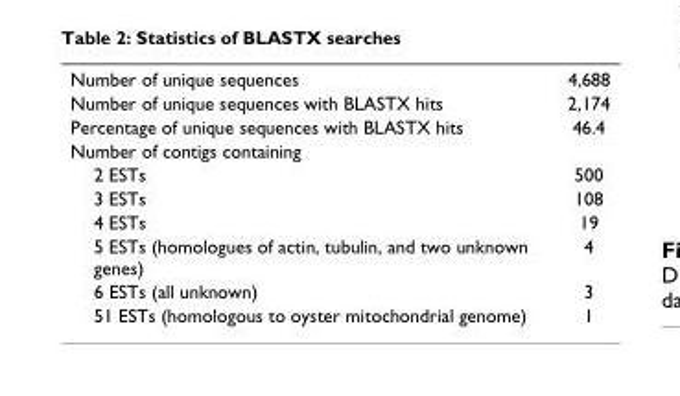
<table><tbody><tr><td>Number of unique sequences</td><td>4,688</td></tr><tr><td>Number of unique sequences with BLASTX hits</td><td>2,174</td></tr><tr><td>Percentage of unique sequences with BLASTX hits</td><td>46.4</td></tr><tr><td colspan="2">Number of contigs containing</td></tr><tr><td>2 ESTs</td><td>500</td></tr><tr><td>3 ESTs</td><td>108</td></tr><tr><td>4 ESTs</td><td>19</td></tr><tr><td>5 ESTs (homologues of actin, tubulin, and two unknown genes)</td><td>4</td></tr><tr><td>6 ESTs (all unknown)</td><td>3</td></tr><tr><td>51 ESTs (homologous to oyster mitochondrial genome)</td><td>1</td></tr></tbody></table>